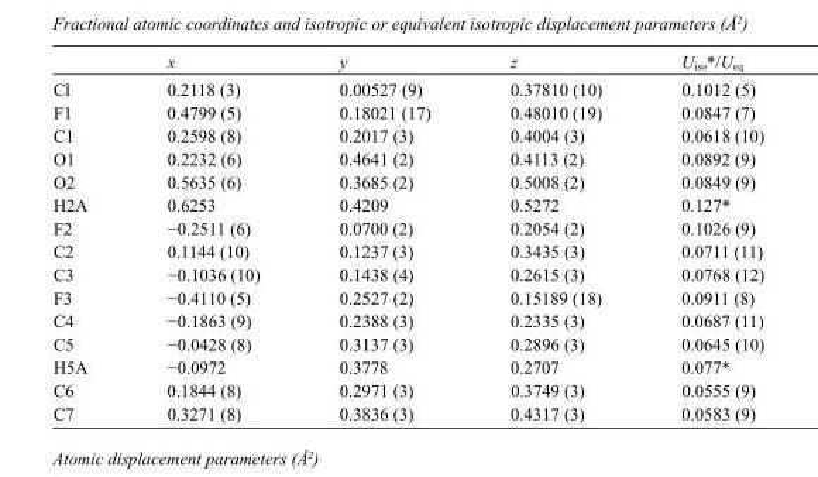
<table><thead><tr><td></td><td>x</td><td>y</td><td>z</td><td>U<sub>iso</sub>*/U<sub>eq</sub></td></tr></thead><tbody><tr><td>Cl</td><td>0.2118 (3)</td><td>0.00527 (9)</td><td>0.37810 (10)</td><td>0.1012 (5)</td></tr><tr><td>F1</td><td>0.4799 (5)</td><td>0.18021 (17)</td><td>0.48010 (19)</td><td>0.0847 (7)</td></tr><tr><td>C1</td><td>0.2598 (8)</td><td>0.2017 (3)</td><td>0.4004 (3)</td><td>0.0618 (10)</td></tr><tr><td>O1</td><td>0.2232 (6)</td><td>0.4641 (2)</td><td>0.4113 (2)</td><td>0.0892 (9)</td></tr><tr><td>O2</td><td>0.5635 (6)</td><td>0.3685 (2)</td><td>0.5008 (2)</td><td>0.0849 (9)</td></tr><tr><td>H2A</td><td>0.6253</td><td>0.4209</td><td>0.5272</td><td>0.127*</td></tr><tr><td>F2</td><td>−0.2511 (6)</td><td>0.0700 (2)</td><td>0.2054 (2)</td><td>0.1026 (9)</td></tr><tr><td>C2</td><td>0.1144 (10)</td><td>0.1237 (3)</td><td>0.3435 (3)</td><td>0.0711 (11)</td></tr><tr><td>C3</td><td>−0.1036 (10)</td><td>0.1438 (4)</td><td>0.2615 (3)</td><td>0.0768 (12)</td></tr><tr><td>F3</td><td>−0.4110 (5)</td><td>0.2527 (2)</td><td>0.15189 (18)</td><td>0.0911 (8)</td></tr><tr><td>C4</td><td>−0.1863 (9)</td><td>0.2388 (3)</td><td>0.2335 (3)</td><td>0.0687 (11)</td></tr><tr><td>C5</td><td>−0.0428 (8)</td><td>0.3137 (3)</td><td>0.2896 (3)</td><td>0.0645 (10)</td></tr><tr><td>H5A</td><td>−0.0972</td><td>0.3778</td><td>0.2707</td><td>0.077*</td></tr><tr><td>C6</td><td>0.1844 (8)</td><td>0.2971 (3)</td><td>0.3749 (3)</td><td>0.0555 (9)</td></tr><tr><td>C7</td><td>0.3271 (8)</td><td>0.3836 (3)</td><td>0.4317 (3)</td><td>0.0583 (9)</td></tr></tbody></table>